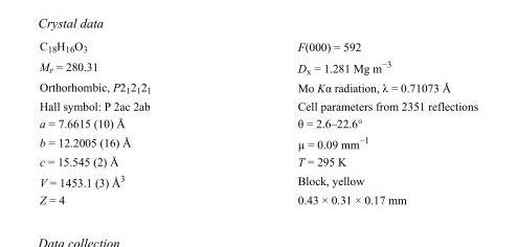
<table><tbody><tr><td>C<sub>18</sub>H<sub>16</sub>O<sub>3</sub></td><td>F(000) = 592</td></tr><tr><td>M<sub>r</sub> = 280.31</td><td>D<sub>x</sub> = 1.281 Mg m<sup>−3</sup></td></tr><tr><td>Orthorhombic, P2<sub>1</sub>2<sub>1</sub>2<sub>1</sub></td><td>Mo Kα radiation, λ = 0.71073 Å</td></tr><tr><td>Hall symbol: P 2ac 2ab</td><td>Cell parameters from 2351 reflections</td></tr><tr><td>a = 7.6615 (10) Å</td><td>θ = 2.6–22.6°</td></tr><tr><td>b = 12.2005 (16) Å</td><td>µ = 0.09 mm<sup>−1</sup></td></tr><tr><td>c = 15.545 (2) Å</td><td>T = 295 K</td></tr><tr><td>V = 1453.1 (3) Å<sup>3</sup></td><td>Block, yellow</td></tr><tr><td>Z = 4</td><td>0.43 × 0.31 × 0.17 mm</td></tr></tbody></table>